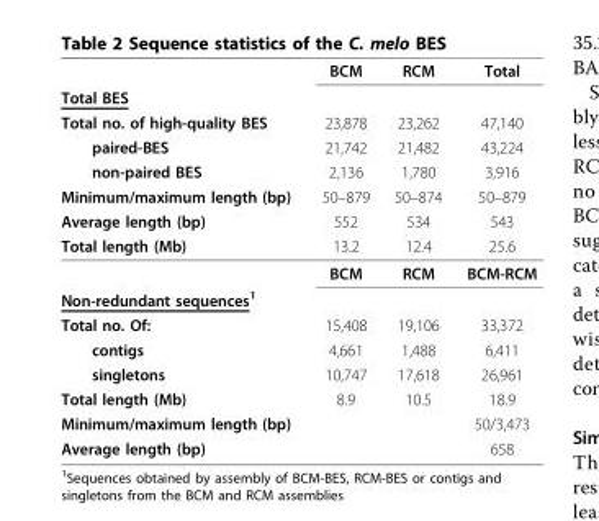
<table><thead><tr><td rowspan="8">Total BES Total no. of high-quality BES paired-BES non-paired BES Minimum/maximum length (bp) Average length (bp) Total length (Mb)</td><td rowspan="8">BCM 23,878 21,742 2,136 50–879 552 13.2</td><td rowspan="8">RCM 23,262 21,482 1,780 50–874 534 12.4</td><td rowspan="8">Total 47,140 43,224 3,916 50–879 543 25.6</td></tr><tr></tr><tr></tr><tr></tr><tr></tr><tr></tr><tr></tr><tr></tr></thead><tbody><tr><td></td><td>BCM</td><td>RCM</td><td>BCM-RCM</td></tr><tr><td colspan="4">Non-redundant sequences<sup>1</sup></td></tr><tr><td>Total no. Of:</td><td>15,408</td><td>19,106</td><td>33,372</td></tr><tr><td>contigs</td><td>4,661</td><td>1,488</td><td>6,411</td></tr><tr><td>singletons</td><td>10,747</td><td>17,618</td><td>26,961</td></tr><tr><td>Total length (Mb)</td><td>8.9</td><td>10.5</td><td>18.9</td></tr><tr><td>Minimum/maximum length (bp)</td><td></td><td></td><td>50/3,473</td></tr><tr><td>Average length (bp)</td><td></td><td></td><td>658</td></tr></tbody></table>